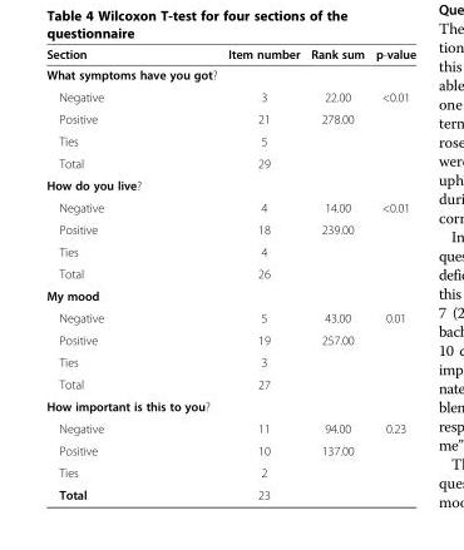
<table><thead><tr><td>Section</td><td>Item number</td><td>Rank sum</td><td>p-value</td></tr></thead><tbody><tr><td colspan="4">What symptoms have you got?</td></tr><tr><td>Negative</td><td>3</td><td>22.00</td><td>&lt;0.01</td></tr><tr><td>Positive</td><td>21</td><td>278.00</td><td></td></tr><tr><td>Ties</td><td>5</td><td></td><td></td></tr><tr><td>Total</td><td>29</td><td></td><td></td></tr><tr><td colspan="4">How do you live?</td></tr><tr><td>Negative</td><td>4</td><td>14.00</td><td>&lt;0.01</td></tr><tr><td>Positive</td><td>18</td><td>239.00</td><td></td></tr><tr><td>Ties</td><td>4</td><td></td><td></td></tr><tr><td>Total</td><td>26</td><td></td><td></td></tr><tr><td colspan="4">My mood</td></tr><tr><td>Negative</td><td>5</td><td>43.00</td><td>0.01</td></tr><tr><td>Positive</td><td>19</td><td>257.00</td><td></td></tr><tr><td>Ties</td><td>3</td><td></td><td></td></tr><tr><td>Total</td><td>27</td><td></td><td></td></tr><tr><td colspan="4">How important is this to you?</td></tr><tr><td>Negative</td><td>11</td><td>94.00</td><td>0.23</td></tr><tr><td>Positive</td><td>10</td><td>137.00</td><td></td></tr><tr><td>Ties</td><td>2</td><td></td><td></td></tr><tr><td>Total</td><td>23</td><td></td><td></td></tr></tbody></table>